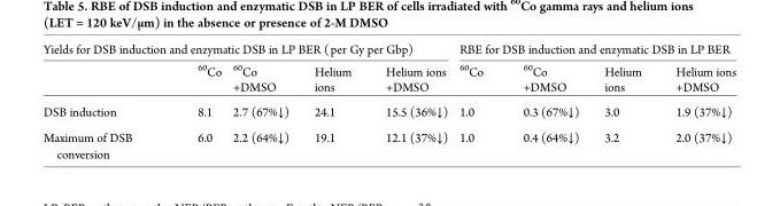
<table><thead><tr><td colspan="5">Yields for DSB induction and enzymatic DSB in LP BER (per Gy per Gbp)</td><td colspan="4">RBE for DSB induction and enzymatic DSB in LP BER</td></tr><tr><td></td><td><sup>60</sup>Co</td><td><sup>60</sup>Co +DMSO</td><td>Helium ions</td><td>Helium ions +DMSO</td><td><sup>60</sup>Co</td><td><sup>60</sup>Co +DMSO</td><td>Helium ions</td><td>Helium ions +DMSO</td></tr></thead><tbody><tr><td>DSB induction</td><td>8.1</td><td>2.7 (67%↓)</td><td>24.1</td><td>15.5 (36%↓)</td><td>1.0</td><td>0.3 (67%↓)</td><td>3.0</td><td>1.9 (37%↓)</td></tr><tr><td>Maximum of DSB conversion</td><td>6.0</td><td>2.2 (64%↓)</td><td>19.1</td><td>12.1 (37%↓)</td><td>1.0</td><td>0.4 (64%↓)</td><td>3.2</td><td>2.0 (37%↓)</td></tr></tbody></table>